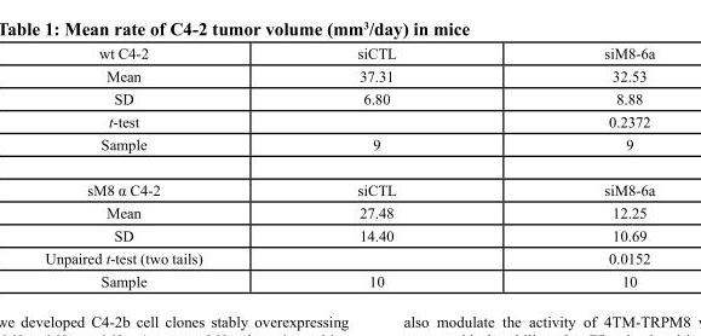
<table><tbody><tr><td>wt C4-2</td><td>siCTL</td><td>siM8-6a</td></tr><tr><td>Mean</td><td>37.31</td><td>32.53</td></tr><tr><td>SD</td><td>6.80</td><td>8.88</td></tr><tr><td>t-test</td><td></td><td>0.2372</td></tr><tr><td>Sample</td><td>9</td><td>9</td></tr><tr><td>sM8 α C4-2</td><td>siCTL</td><td>siM8-6a</td></tr><tr><td>Mean</td><td>27.48</td><td>12.25</td></tr><tr><td>SD</td><td>14.40</td><td>10.69</td></tr><tr><td>Unpaired t-test (two tails)</td><td></td><td>0.0152</td></tr><tr><td>Sample</td><td>10</td><td>10</td></tr></tbody></table>